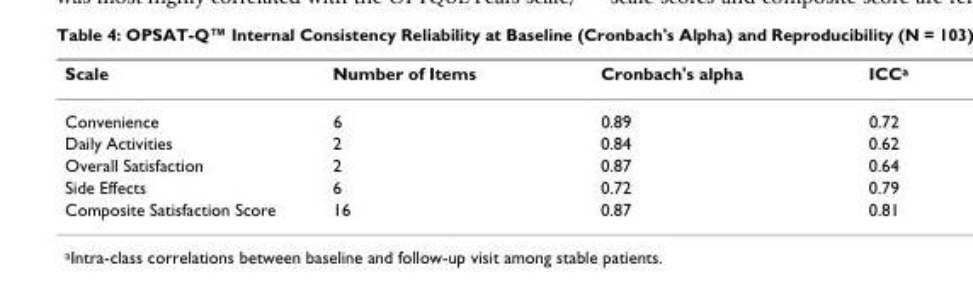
<table><thead><tr><td>Scale</td><td>Number of Items</td><td>Cronbach&#x27;s alpha</td><td>ICC<sup>a</sup></td></tr></thead><tbody><tr><td>Convenience</td><td>6</td><td>0.89</td><td>0.72</td></tr><tr><td>Daily Activities</td><td>2</td><td>0.84</td><td>0.62</td></tr><tr><td>Overall Satisfaction</td><td>2</td><td>0.87</td><td>0.64</td></tr><tr><td>Side Effects</td><td>6</td><td>0.72</td><td>0.79</td></tr><tr><td>Composite Satisfaction Score</td><td>16</td><td>0.87</td><td>0.81</td></tr></tbody></table>